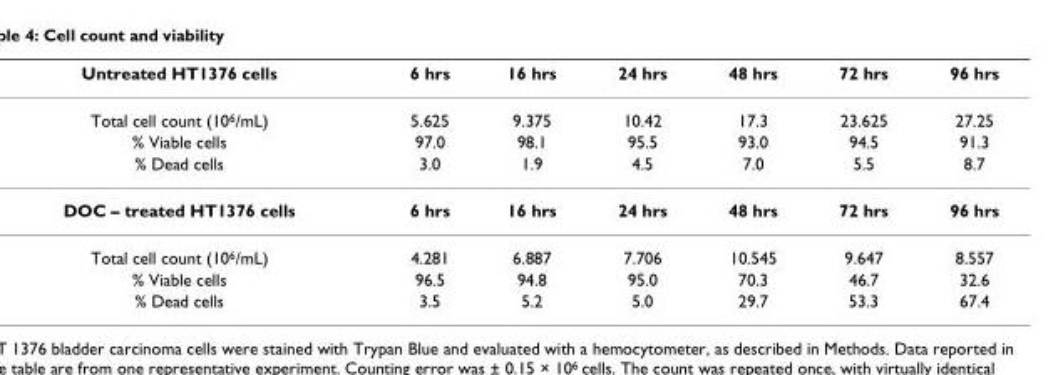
<table><thead><tr><td>Untreated HT1376 cells</td><td>6 hrs</td><td>16 hrs</td><td>24 hrs</td><td>48 hrs</td><td>72 hrs</td><td>96 hrs</td></tr></thead><tbody><tr><td>Total cell count (10<sup>6</sup>/mL)</td><td>5.625</td><td>9.375</td><td>10.42</td><td>17.3</td><td>23.625</td><td>27.25</td></tr><tr><td>% Viable cells</td><td>97.0</td><td>98.1</td><td>95.5</td><td>93.0</td><td>94.5</td><td>91.3</td></tr><tr><td>% Dead cells</td><td>3.0</td><td>1.9</td><td>4.5</td><td>7.0</td><td>5.5</td><td>8.7</td></tr><tr><td>DOC – treated HT1376 cells</td><td>6 hrs</td><td>16 hrs</td><td>24 hrs</td><td>48 hrs</td><td>72 hrs</td><td>96 hrs</td></tr><tr><td>Total cell count (10<sup>6</sup>/mL)</td><td>4.281</td><td>6.887</td><td>7.706</td><td>10.545</td><td>9.647</td><td>8.557</td></tr><tr><td>% Viable cells</td><td>96.5</td><td>94.8</td><td>95.0</td><td>70.3</td><td>46.7</td><td>32.6</td></tr><tr><td>% Dead cells</td><td>3.5</td><td>5.2</td><td>5.0</td><td>29.7</td><td>53.3</td><td>67.4</td></tr></tbody></table>